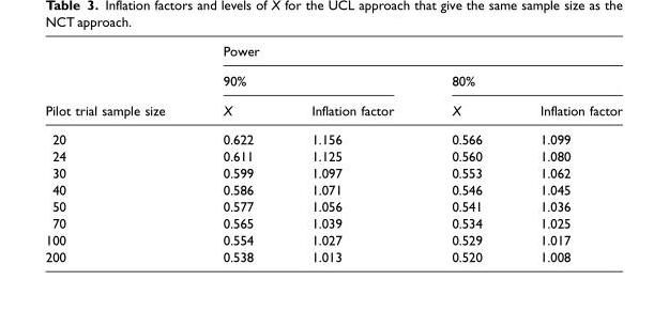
<table><thead><tr><td rowspan="3">Pilot trial sample size</td><td colspan="4">Power</td></tr><tr><td colspan="2">90%</td><td colspan="2">80%</td></tr><tr><td>X</td><td>Inflation factor</td><td>X</td><td>Inflation factor</td></tr></thead><tbody><tr><td>20</td><td>0.622</td><td>1.156</td><td>0.566</td><td>1.099</td></tr><tr><td>24</td><td>0.611</td><td>1.125</td><td>0.560</td><td>1.080</td></tr><tr><td>30</td><td>0.599</td><td>1.097</td><td>0.553</td><td>1.062</td></tr><tr><td>40</td><td>0.586</td><td>1.071</td><td>0.546</td><td>1.045</td></tr><tr><td>50</td><td>0.577</td><td>1.056</td><td>0.541</td><td>1.036</td></tr><tr><td>70</td><td>0.565</td><td>1.039</td><td>0.534</td><td>1.025</td></tr><tr><td>100</td><td>0.554</td><td>1.027</td><td>0.529</td><td>1.017</td></tr><tr><td>200</td><td>0.538</td><td>1.013</td><td>0.520</td><td>1.008</td></tr></tbody></table>